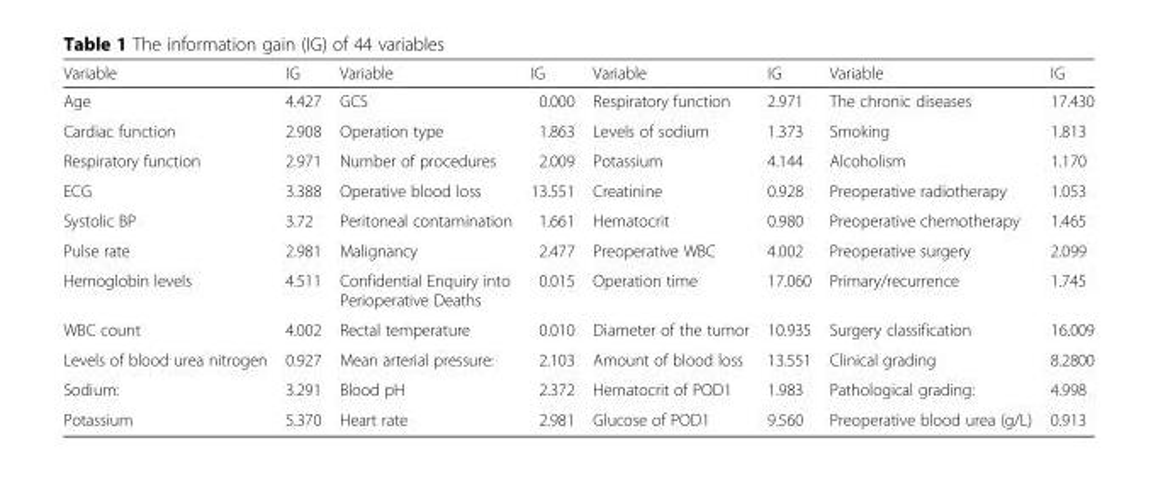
<table><thead><tr><td>Variable</td><td>IG</td><td>Variable</td><td>IG</td><td>Variable</td><td>IG</td><td>Variable</td><td>IG</td></tr></thead><tbody><tr><td>Age</td><td>4.427</td><td>GCS</td><td>0.000</td><td>Respiratory function</td><td>2.971</td><td>The chronic diseases</td><td>17.430</td></tr><tr><td>Cardiac function</td><td>2.908</td><td>Operation type</td><td>1.863</td><td>Levels of sodium</td><td>1.373</td><td>Smoking</td><td>1.813</td></tr><tr><td>Respiratory function</td><td>2.971</td><td>Number of procedures</td><td>2.009</td><td>Potassium</td><td>4.144</td><td>Alcoholism</td><td>1.170</td></tr><tr><td>ECG</td><td>3.388</td><td>Operative blood loss</td><td>13.551</td><td>Creatinine</td><td>0.928</td><td>Preoperative radiotherapy</td><td>1.053</td></tr><tr><td>Systolic BP</td><td>3.72</td><td>Peritoneal contamination</td><td>1.661</td><td>Hematocrit</td><td>0.980</td><td>Preoperative chemotherapy</td><td>1.465</td></tr><tr><td>Pulse rate</td><td>2.981</td><td>Malignancy</td><td>2.477</td><td>Preoperative WBC</td><td>4.002</td><td>Preoperative surgery</td><td>2.099</td></tr><tr><td>Hemoglobin levels</td><td>4.511</td><td>Confidential Enquiry into Perioperative Deaths</td><td>0.015</td><td>Operation time</td><td>17.060</td><td>Primary/recurrence</td><td>1.745</td></tr><tr><td>WBC count</td><td>4.002</td><td>Rectal temperature</td><td>0.010</td><td>Diameter of the tumor</td><td>10.935</td><td>Surgery classification</td><td>16.009</td></tr><tr><td>Levels of blood urea nitrogen</td><td>0.927</td><td>Mean arterial pressure:</td><td>2.103</td><td>Amount of blood loss</td><td>13.551</td><td>Clinical grading</td><td>8.2800</td></tr><tr><td>Sodium:</td><td>3.291</td><td>Blood pH</td><td>2.372</td><td>Hematocrit of POD1</td><td>1.983</td><td>Pathological grading:</td><td>4.998</td></tr><tr><td>Potassium</td><td>5.370</td><td>Heart rate</td><td>2.981</td><td>Glucose of POD1</td><td>9.560</td><td>Preoperative blood urea (g/L)</td><td>0.913</td></tr></tbody></table>